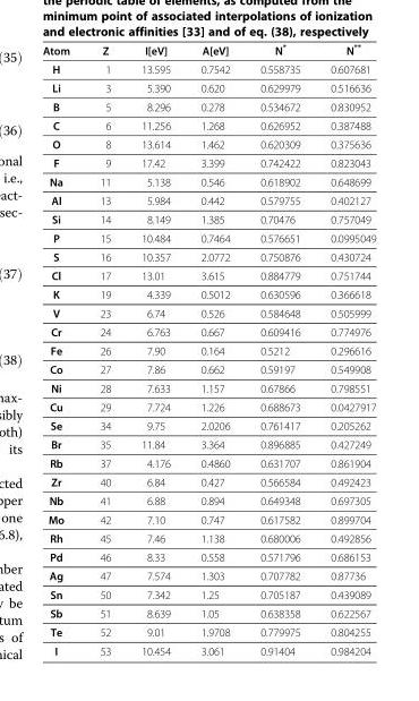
<table><thead><tr><td>Atom</td><td>Z</td><td>I[eV]</td><td>A[eV]</td><td>N*</td><td>N**</td></tr></thead><tbody><tr><td>H</td><td>1</td><td>13.595</td><td>0.7542</td><td>0.558735</td><td>0.607681</td></tr><tr><td>Li</td><td>3</td><td>5.390</td><td>0.620</td><td>0.629979</td><td>0.516636</td></tr><tr><td>B</td><td>5</td><td>8.296</td><td>0.278</td><td>0.534672</td><td>0.830952</td></tr><tr><td>C</td><td>6</td><td>11.256</td><td>1.268</td><td>0.626952</td><td>0.387488</td></tr><tr><td>O</td><td>8</td><td>13.614</td><td>1.462</td><td>0.620309</td><td>0.375636</td></tr><tr><td>F</td><td>9</td><td>17.42</td><td>3.399</td><td>0.742422</td><td>0.823043</td></tr><tr><td>Na</td><td>11</td><td>5.138</td><td>0.546</td><td>0.618902</td><td>0.648699</td></tr><tr><td>Al</td><td>13</td><td>5.984</td><td>0.442</td><td>0.579755</td><td>0.402127</td></tr><tr><td>Si</td><td>14</td><td>8.149</td><td>1.385</td><td>0.70476</td><td>0.757049</td></tr><tr><td>P</td><td>15</td><td>10.484</td><td>0.7464</td><td>0.576651</td><td>0.0995049</td></tr><tr><td>S</td><td>16</td><td>10.357</td><td>2.0772</td><td>0.750876</td><td>0.430724</td></tr><tr><td>Cl</td><td>17</td><td>13.01</td><td>3.615</td><td>0.884779</td><td>0.751744</td></tr><tr><td>K</td><td>19</td><td>4.339</td><td>0.5012</td><td>0.630596</td><td>0.366618</td></tr><tr><td>V</td><td>23</td><td>6.74</td><td>0.526</td><td>0.584648</td><td>0.505999</td></tr><tr><td>Cr</td><td>24</td><td>6.763</td><td>0.667</td><td>0.609416</td><td>0.774976</td></tr><tr><td>Fe</td><td>26</td><td>7.90</td><td>0.164</td><td>0.5212</td><td>0.296616</td></tr><tr><td>Co</td><td>27</td><td>7.86</td><td>0.662</td><td>0.59197</td><td>0.549908</td></tr><tr><td>Ni</td><td>28</td><td>7.633</td><td>1.157</td><td>0.67866</td><td>0.798551</td></tr><tr><td>Cu</td><td>29</td><td>7.724</td><td>1.226</td><td>0.688673</td><td>0.0427917</td></tr><tr><td>Se</td><td>34</td><td>9.75</td><td>2.0206</td><td>0.761417</td><td>0.205262</td></tr><tr><td>Br</td><td>35</td><td>11.84</td><td>3.364</td><td>0.896885</td><td>0.427249</td></tr><tr><td>Rb</td><td>37</td><td>4.176</td><td>0.4860</td><td>0.631707</td><td>0.861904</td></tr><tr><td>Zr</td><td>40</td><td>6.84</td><td>0.427</td><td>0.566584</td><td>0.492423</td></tr><tr><td>Nb</td><td>41</td><td>6.88</td><td>0.894</td><td>0.649348</td><td>0.697305</td></tr><tr><td>Mo</td><td>42</td><td>7.10</td><td>0.747</td><td>0.617582</td><td>0.899704</td></tr><tr><td>Rh</td><td>45</td><td>7.46</td><td>1.138</td><td>0.680006</td><td>0.492856</td></tr><tr><td>Pd</td><td>46</td><td>8.33</td><td>0.558</td><td>0.571796</td><td>0.686153</td></tr><tr><td>Ag</td><td>47</td><td>7.574</td><td>1.303</td><td>0.707782</td><td>0.87736</td></tr><tr><td>Sn</td><td>50</td><td>7.342</td><td>1.25</td><td>0.705187</td><td>0.439089</td></tr><tr><td>Sb</td><td>51</td><td>8.639</td><td>1.05</td><td>0.638358</td><td>0.622567</td></tr><tr><td>Te</td><td>52</td><td>9.01</td><td>1.9708</td><td>0.779975</td><td>0.804255</td></tr><tr><td>I</td><td>53</td><td>10.454</td><td>3.061</td><td>0.91404</td><td>0.984204</td></tr></tbody></table>